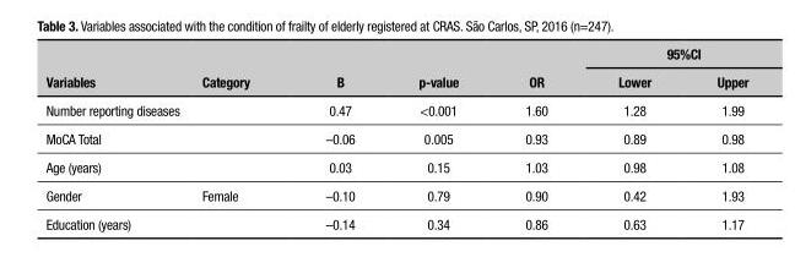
<table><thead><tr><td rowspan="2">Variables</td><td rowspan="2">Category</td><td rowspan="2">B</td><td rowspan="2">p-value</td><td rowspan="2">OR</td><td colspan="2">95%CI</td></tr><tr><td>Lower</td><td>Upper</td></tr></thead><tbody><tr><td>Number reporting diseases</td><td></td><td>0.47</td><td>&lt;0.001</td><td>1.60</td><td>1.28</td><td>1.99</td></tr><tr><td>MoCA Total</td><td></td><td>–0.06</td><td>0.005</td><td>0.93</td><td>0.89</td><td>0.98</td></tr><tr><td>Age (years)</td><td></td><td>0.03</td><td>0.15</td><td>1.03</td><td>0.98</td><td>1.08</td></tr><tr><td>Gender</td><td>Female</td><td>–0.10</td><td>0.79</td><td>0.90</td><td>0.42</td><td>1.93</td></tr><tr><td>Education (years)</td><td></td><td>–0.14</td><td>0.34</td><td>0.86</td><td>0.63</td><td>1.17</td></tr></tbody></table>